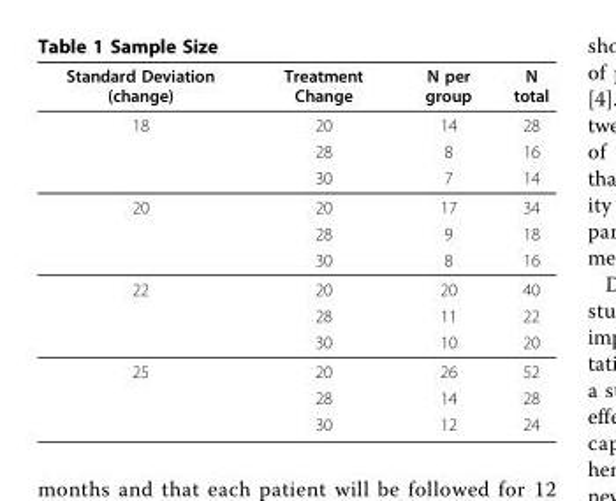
<table><thead><tr><td>Standard Deviation (change)</td><td>Treatment Change</td><td>N per group</td><td>N total</td></tr></thead><tbody><tr><td rowspan="3">18</td><td>20</td><td>14</td><td>28</td></tr><tr><td>28</td><td>8</td><td>16</td></tr><tr><td>30</td><td>7</td><td>14</td></tr><tr><td rowspan="3">20</td><td>20</td><td>17</td><td>34</td></tr><tr><td>28</td><td>9</td><td>18</td></tr><tr><td>30</td><td>8</td><td>16</td></tr><tr><td rowspan="3">22</td><td>20</td><td>20</td><td>40</td></tr><tr><td>28</td><td>11</td><td>22</td></tr><tr><td>30</td><td>10</td><td>20</td></tr><tr><td rowspan="3">25</td><td>20</td><td>26</td><td>52</td></tr><tr><td>28</td><td>14</td><td>28</td></tr><tr><td>30</td><td>12</td><td>24</td></tr></tbody></table>